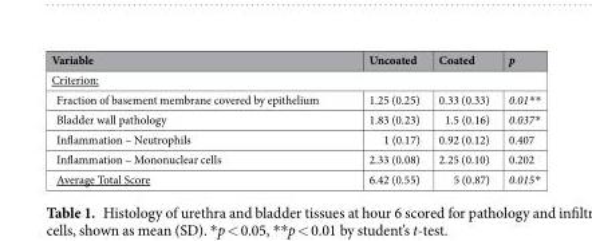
<table><thead><tr><td>Variable</td><td>Uncoated</td><td>Coated</td><td>p</td></tr></thead><tbody><tr><td colspan="4">Criterion:</td></tr><tr><td>Fraction of basement membrane covered by epithelium</td><td>1.25 (0.25)</td><td>0.33 (0.33)</td><td>0.01**</td></tr><tr><td>Bladder wall pathology</td><td>1.83 (0.23)</td><td>1.5 (0.16)</td><td>0.037*</td></tr><tr><td>Inflammation – Neutrophils</td><td>1 (0.17)</td><td>0.92 (0.12)</td><td>0.407</td></tr><tr><td>Inflammation – Mononuclear cells</td><td>2.33 (0.08)</td><td>2.25 (0.10)</td><td>0.202</td></tr><tr><td>Average Total Score</td><td>6.42 (0.55)</td><td>5 (0.87)</td><td>0.015*</td></tr></tbody></table>